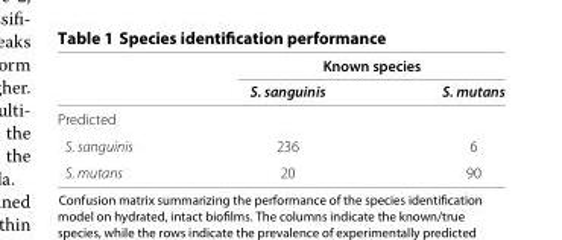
<table><thead><tr><td rowspan="2"></td><td colspan="2">Known species</td></tr><tr><td>S. sanguinis</td><td>S. mutans</td></tr></thead><tbody><tr><td colspan="3">Predicted</td></tr><tr><td>S. sanguinis</td><td>236</td><td>6</td></tr><tr><td>S. mutans</td><td>20</td><td>90</td></tr></tbody></table>